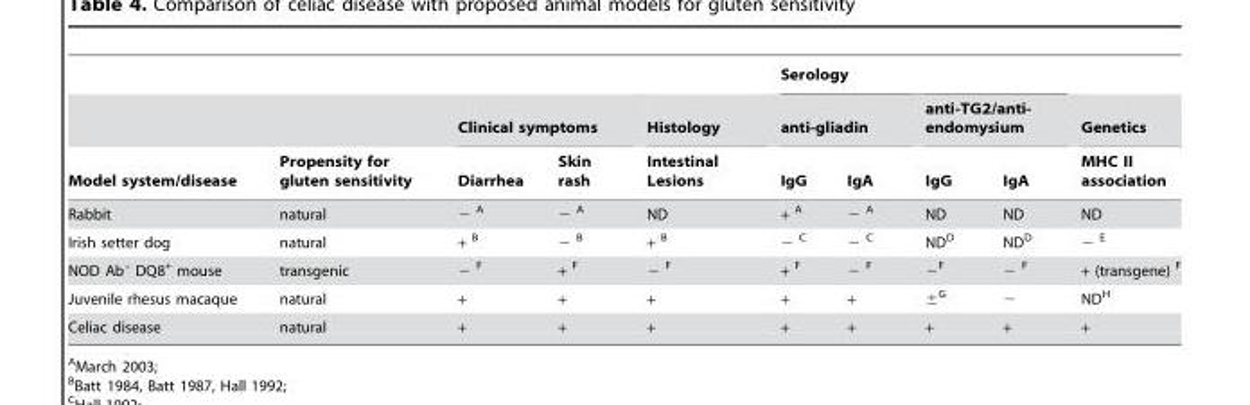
<table><thead><tr><td rowspan="3">Model system/disease</td><td rowspan="3">Propensity for gluten sensitivity</td><td></td><td></td><td rowspan="3">Histology Intestinal Lesions</td><td colspan="4">Serology</td><td rowspan="3">Genetics MHC II association</td></tr><tr><td colspan="2">Clinical symptoms</td><td colspan="2">anti-gliadin</td><td colspan="2">anti-TG2/anti- endomysium</td></tr><tr><td>Diarrhea</td><td>Skin rash</td><td>IgG</td><td>IgA</td><td>IgG</td><td>IgA</td></tr></thead><tbody><tr><td>Rabbit</td><td>natural</td><td>− A</td><td>− A</td><td>ND</td><td>+ A</td><td>− A</td><td>ND</td><td>ND</td><td>ND</td></tr><tr><td>Irish setter dog</td><td>natural</td><td>+ B</td><td>− B</td><td>+ B</td><td>− C</td><td>− C</td><td>ND<sup>D</sup></td><td>ND<sup>D</sup></td><td>− E</td></tr><tr><td>NOD Ab° DQ8<sup>+</sup> mouse</td><td>transgenic</td><td>− F</td><td>+ F</td><td>− F</td><td>+ F</td><td>− F</td><td>−F</td><td>− F</td><td>+ (transgene) F</td></tr><tr><td>Juvenile rhesus macaque</td><td>natural</td><td>+</td><td>+</td><td>+</td><td>+</td><td>+</td><td>±<sup>G</sup></td><td>−</td><td>ND<sup>H</sup></td></tr><tr><td>Celiac disease</td><td>natural</td><td>+</td><td>+</td><td>+</td><td>+</td><td>+</td><td>+</td><td>+</td><td>+</td></tr></tbody></table>